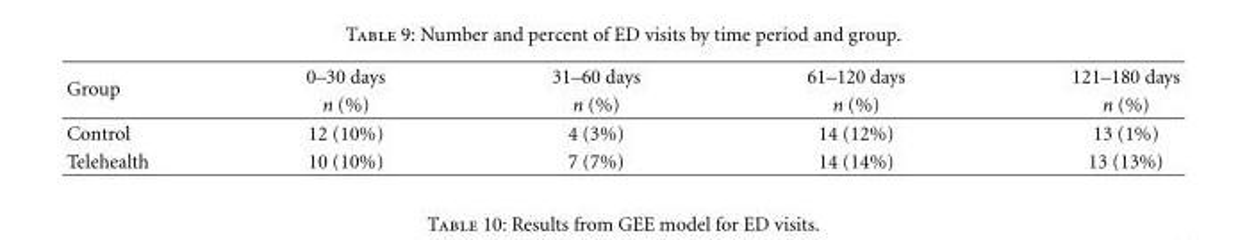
<table><tbody><tr><td rowspan="2">Group</td><td>0–30 days</td><td>31–60 days</td><td>61–120 days</td><td>121–180 days</td></tr><tr><td>n (%)</td><td>n (%)</td><td>n (%)</td><td>n (%)</td></tr><tr><td>Control</td><td>12 (10%)</td><td>4 (3%)</td><td>14 (12%)</td><td>13 (1%)</td></tr><tr><td>Telehealth</td><td>10 (10%)</td><td>7 (7%)</td><td>14 (14%)</td><td>13 (13%)</td></tr></tbody></table>